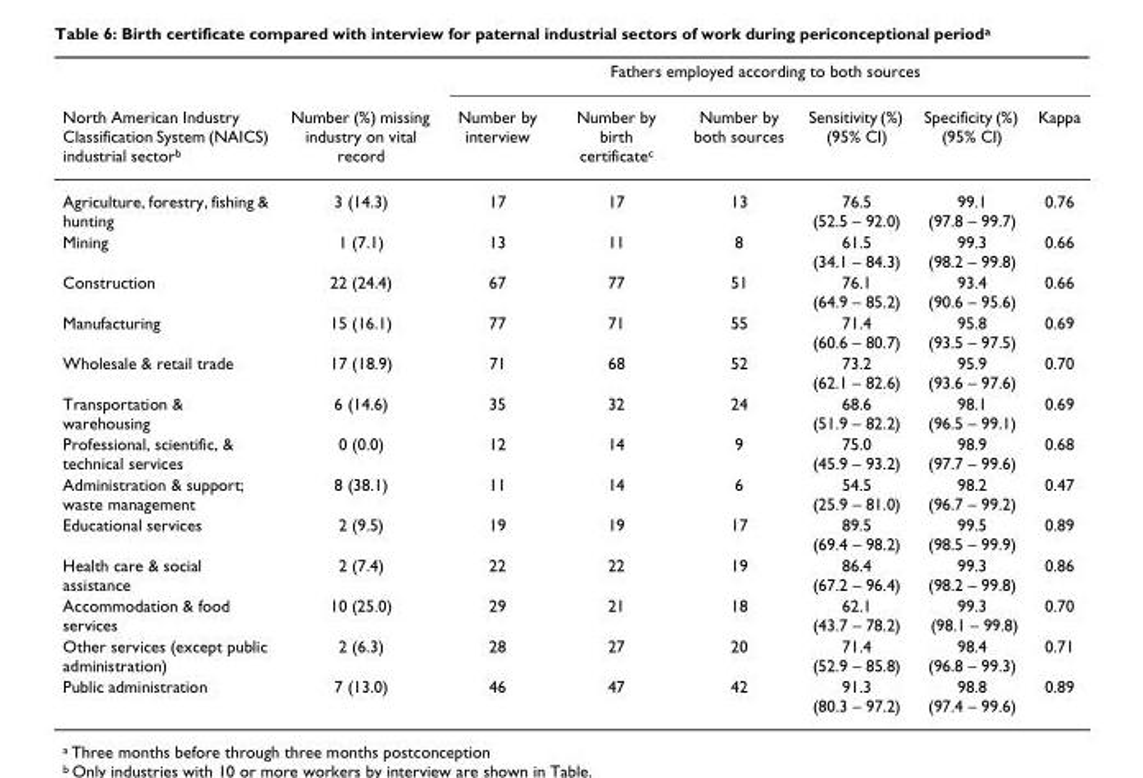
<table><thead><tr><td rowspan="2">North American Industry Classification System (NAICS) industrial sector<sup>b</sup></td><td rowspan="2">Number (%) missing industry on vital record</td><td colspan="6">Fathers employed according to both sources</td></tr><tr><td>Number by interview</td><td>Number by birth certificate<sup>c</sup></td><td>Number by both sources</td><td>Sensitivity (%) (95% CI)</td><td>Specificity (%) (95% CI)</td><td>Kappa</td></tr></thead><tbody><tr><td>Agriculture, forestry, fishing &amp; hunting</td><td>3 (14.3)</td><td>17</td><td>17</td><td>13</td><td>76.5 (52.5 – 92.0)</td><td>99.1 (97.8 – 99.7)</td><td>0.76</td></tr><tr><td>Mining</td><td>1 (7.1)</td><td>13</td><td>11</td><td>8</td><td>61.5 (34.1 – 84.3)</td><td>99.3 (98.2 – 99.8)</td><td>0.66</td></tr><tr><td>Construction</td><td>22 (24.4)</td><td>67</td><td>77</td><td>51</td><td>76.1 (64.9 – 85.2)</td><td>93.4 (90.6 – 95.6)</td><td>0.66</td></tr><tr><td>Manufacturing</td><td>15 (16.1)</td><td>77</td><td>71</td><td>55</td><td>71.4 (60.6 – 80.7)</td><td>95.8 (93.5 – 97.5)</td><td>0.69</td></tr><tr><td>Wholesale &amp; retail trade</td><td>17 (18.9)</td><td>71</td><td>68</td><td>52</td><td>73.2 (62.1 – 82.6)</td><td>95.9 (93.6 – 97.6)</td><td>0.70</td></tr><tr><td>Transportation &amp; warehousing</td><td>6 (14.6)</td><td>35</td><td>32</td><td>24</td><td>68.6 (51.9 – 82.2)</td><td>98.1 (96.5 – 99.1)</td><td>0.69</td></tr><tr><td>Professional, scientific, &amp; technical services</td><td>0 (0.0)</td><td>12</td><td>14</td><td>9</td><td>75.0 (45.9 – 93.2)</td><td>98.9 (97.7 – 99.6)</td><td>0.68</td></tr><tr><td>Administration &amp; support; waste management</td><td>8 (38.1)</td><td>11</td><td>14</td><td>6</td><td>54.5 (25.9 – 81.0)</td><td>98.2 (96.7 – 99.2)</td><td>0.47</td></tr><tr><td>Educational services</td><td>2 (9.5)</td><td>19</td><td>19</td><td>17</td><td>89.5 (69.4 – 98.2)</td><td>99.5 (98.5 – 99.9)</td><td>0.89</td></tr><tr><td>Health care &amp; social assistance</td><td>2 (7.4)</td><td>22</td><td>22</td><td>19</td><td>86.4 (67.2 – 96.4)</td><td>99.3 (98.2 – 99.8)</td><td>0.86</td></tr><tr><td>Accommodation &amp; food services</td><td>10 (25.0)</td><td>29</td><td>21</td><td>18</td><td>62.1 (43.7 – 78.2)</td><td>99.3 (98.1 – 99.8)</td><td>0.70</td></tr><tr><td>Other services (except public administration)</td><td>2 (6.3)</td><td>28</td><td>27</td><td>20</td><td>71.4 (52.9 – 85.8)</td><td>98.4 (96.8 – 99.3)</td><td>0.71</td></tr><tr><td>Public administration</td><td>7 (13.0)</td><td>46</td><td>47</td><td>42</td><td>91.3 (80.3 – 97.2)</td><td>98.8 (97.4 – 99.6)</td><td>0.89</td></tr></tbody></table>